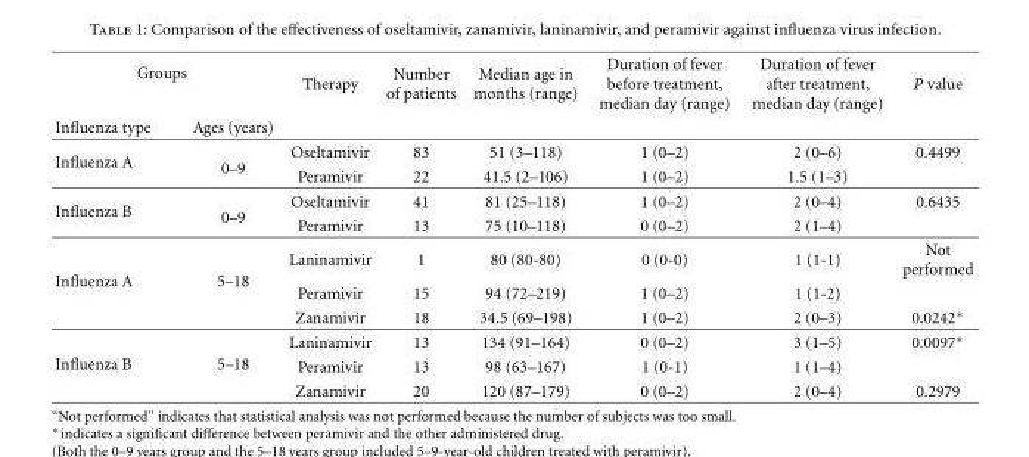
<table><thead><tr><td colspan="2">Groups</td><td rowspan="2">Therapy</td><td rowspan="2">Number of patients</td><td rowspan="2">Median age in months (range)</td><td rowspan="2">Duration of fever before treatment, median day (range)</td><td rowspan="2">Duration of fever after treatment, median day (range)</td><td rowspan="2">P value</td></tr><tr><td>Influenza type</td><td>Ages (years)</td></tr></thead><tbody><tr><td rowspan="2">Influenza A</td><td rowspan="2">0–9</td><td>Oseltamivir</td><td>83</td><td>51 (3–118)</td><td>1 (0–2)</td><td>2 (0–6)</td><td>0.4499</td></tr><tr><td>Peramivir</td><td>22</td><td>41.5 (2–106)</td><td>1 (0–2)</td><td>1.5 (1–3)</td><td></td></tr><tr><td rowspan="2">Influenza B</td><td rowspan="2">0–9</td><td>Oseltamivir</td><td>41</td><td>81 (25–118)</td><td>1 (0–2)</td><td>2 (0–4)</td><td>0.6435</td></tr><tr><td>Peramivir</td><td>13</td><td>75 (10–118)</td><td>0 (0–2)</td><td>2 (1–4)</td><td></td></tr><tr><td rowspan="3">Influenza A</td><td rowspan="3">5–18</td><td>Laninamivir</td><td>1</td><td>80 (80-80)</td><td>0 (0-0)</td><td>1 (1-1)</td><td>Not performed</td></tr><tr><td>Peramivir</td><td>15</td><td>94 (72–219)</td><td>1 (0–2)</td><td>1 (1-2)</td><td></td></tr><tr><td>Zanamivir</td><td>18</td><td>34.5 (69–198)</td><td>1 (0–2)</td><td>2 (0–3)</td><td>0.0242∗</td></tr><tr><td rowspan="3">Influenza B</td><td rowspan="3">5–18</td><td>Laninamivir</td><td>13</td><td>134 (91–164)</td><td>0 (0–2)</td><td>3 (1–5)</td><td>0.0097∗</td></tr><tr><td>Peramivir</td><td>13</td><td>98 (63–167)</td><td>1 (0-1)</td><td>1 (1–4)</td><td></td></tr><tr><td>Zanamivir</td><td>20</td><td>120 (87–179)</td><td>0 (0–2)</td><td>2 (0–4)</td><td>0.2979</td></tr></tbody></table>